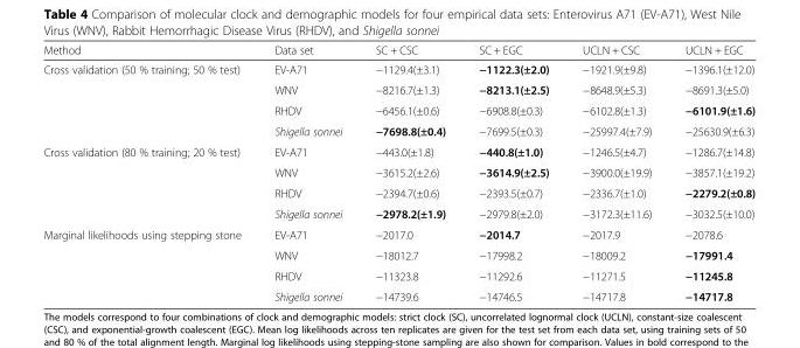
<table><thead><tr><td>Method</td><td>Data set</td><td>SC + CSC</td><td>SC + EGC</td><td>UCLN + CSC</td><td>UCLN + EGC</td></tr></thead><tbody><tr><td rowspan="4">Cross validation (50 % training; 50 % test)</td><td>EV-A71</td><td>−1129.4(±3.1)</td><td>−1122.3(±2.0)</td><td>−1921.9(±9.8)</td><td>−1396.1(±12.0)</td></tr><tr><td>WNV</td><td>−8216.7(±1.3)</td><td>−8213.1(±2.5)</td><td>−8648.9(±5.3)</td><td>−8691.3(±5.0)</td></tr><tr><td>RHDV</td><td>−6456.1(±0.6)</td><td>−6908.8(±0.3)</td><td>−6102.8(±1.3)</td><td>−6101.9(±1.6)</td></tr><tr><td>Shigella sonnei</td><td>−7698.8(±0.4)</td><td>−7699.5(±0.3)</td><td>−25997.4(±7.9)</td><td>−25630.9(±6.3)</td></tr><tr><td rowspan="4">Cross validation (80 % training; 20 % test)</td><td>EV-A71</td><td>−443.0(±1.8)</td><td>−440.8(±1.0)</td><td>−1246.5(±4.7)</td><td>−1286.7(±14.8)</td></tr><tr><td>WNV</td><td>−3615.2(±2.6)</td><td>−3614.9(±2.5)</td><td>−3900.0(±19.9)</td><td>−3857.1(±19.2)</td></tr><tr><td>RHDV</td><td>−2394.7(±0.6)</td><td>−2393.5(±0.7)</td><td>−2336.7(±1.0)</td><td>−2279.2(±0.8)</td></tr><tr><td>Shigella sonnei</td><td>−2978.2(±1.9)</td><td>−2979.8(±2.0)</td><td>−3172.3(±11.6)</td><td>−3032.5(±10.0)</td></tr><tr><td rowspan="4">Marginal likelihoods using stepping stone</td><td>EV-A71</td><td>−2017.0</td><td>−2014.7</td><td>−2017.9</td><td>−2078.6</td></tr><tr><td>WNV</td><td>−18012.7</td><td>−17998.2</td><td>−18009.2</td><td>−17991.4</td></tr><tr><td>RHDV</td><td>−11323.8</td><td>−11292.6</td><td>−11271.5</td><td>−11245.8</td></tr><tr><td>Shigella sonnei</td><td>−14739.6</td><td>−14746.5</td><td>−14717.8</td><td>−14717.8</td></tr></tbody></table>